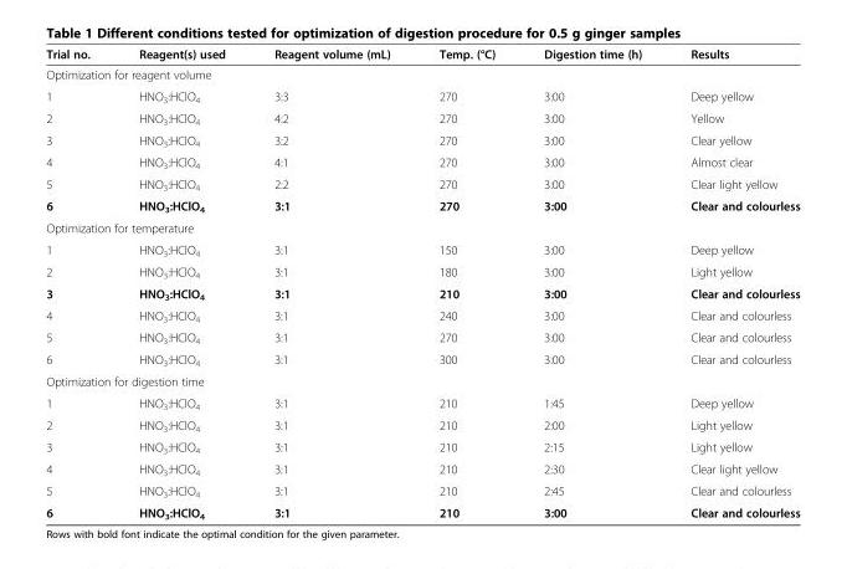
<table><thead><tr><td>Trial no.</td><td>Reagent(s) used</td><td>Reagent volume (mL)</td><td>Temp. (°C)</td><td>Digestion time (h)</td><td>Results</td></tr></thead><tbody><tr><td colspan="6">Optimization for reagent volume</td></tr><tr><td>1</td><td>HNO<sub>3</sub>:HClO<sub>4</sub></td><td>3:3</td><td>270</td><td>3:00</td><td>Deep yellow</td></tr><tr><td>2</td><td>HNO<sub>3</sub>:HClO<sub>4</sub></td><td>4:2</td><td>270</td><td>3:00</td><td>Yellow</td></tr><tr><td>3</td><td>HNO<sub>3</sub>:HClO<sub>4</sub></td><td>3:2</td><td>270</td><td>3:00</td><td>Clear yellow</td></tr><tr><td>4</td><td>HNO<sub>3</sub>:HClO<sub>4</sub></td><td>4:1</td><td>270</td><td>3:00</td><td>Almost clear</td></tr><tr><td>5</td><td>HNO<sub>3</sub>:HClO<sub>4</sub></td><td>2:2</td><td>270</td><td>3:00</td><td>Clear light yellow</td></tr><tr><td>6</td><td>HNO<sub>3</sub>:HClO<sub>4</sub></td><td>3:1</td><td>270</td><td>3:00</td><td>Clear and colourless</td></tr><tr><td colspan="6">Optimization for temperature</td></tr><tr><td>1</td><td>HNO<sub>3</sub>:HClO<sub>4</sub></td><td>3:1</td><td>150</td><td>3:00</td><td>Deep yellow</td></tr><tr><td>2</td><td>HNO<sub>3</sub>:HClO<sub>4</sub></td><td>3:1</td><td>180</td><td>3:00</td><td>Light yellow</td></tr><tr><td>3</td><td>HNO<sub>3</sub>:HClO<sub>4</sub></td><td>3:1</td><td>210</td><td>3:00</td><td>Clear and colourless</td></tr><tr><td>4</td><td>HNO<sub>3</sub>:HClO<sub>4</sub></td><td>3:1</td><td>240</td><td>3:00</td><td>Clear and colourless</td></tr><tr><td>5</td><td>HNO<sub>3</sub>:HClO<sub>4</sub></td><td>3:1</td><td>270</td><td>3:00</td><td>Clear and colourless</td></tr><tr><td>6</td><td>HNO<sub>3</sub>:HClO<sub>4</sub></td><td>3:1</td><td>300</td><td>3:00</td><td>Clear and colourless</td></tr><tr><td colspan="6">Optimization for digestion time</td></tr><tr><td>1</td><td>HNO<sub>3</sub>:HClO<sub>4</sub></td><td>3:1</td><td>210</td><td>1:45</td><td>Deep yellow</td></tr><tr><td>2</td><td>HNO<sub>3</sub>:HClO<sub>4</sub></td><td>3:1</td><td>210</td><td>2:00</td><td>Light yellow</td></tr><tr><td>3</td><td>HNO<sub>3</sub>:HClO<sub>4</sub></td><td>3:1</td><td>210</td><td>2:15</td><td>Light yellow</td></tr><tr><td>4</td><td>HNO<sub>3</sub>:HClO<sub>4</sub></td><td>3:1</td><td>210</td><td>2:30</td><td>Clear light yellow</td></tr><tr><td>5</td><td>HNO<sub>3</sub>:HClO<sub>4</sub></td><td>3:1</td><td>210</td><td>2:45</td><td>Clear and colourless</td></tr><tr><td>6</td><td>HNO<sub>3</sub>:HClO<sub>4</sub></td><td>3:1</td><td>210</td><td>3:00</td><td>Clear and colourless</td></tr></tbody></table>